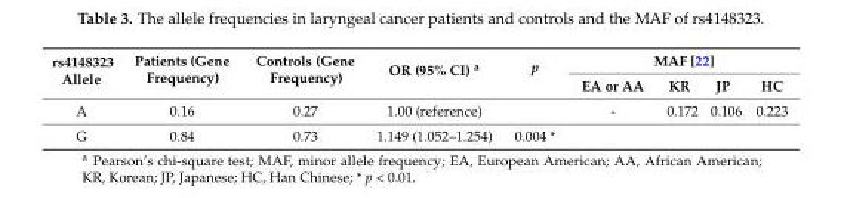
<table><thead><tr><td rowspan="2">rs4148323 Allele</td><td rowspan="2">Patients (Gene Frequency)</td><td rowspan="2">Controls (Gene Frequency)</td><td rowspan="2">OR (95% CI) <sup>a</sup></td><td rowspan="2">p</td><td colspan="4">MAF [22]</td></tr><tr><td>EA or AA</td><td>KR</td><td>JP</td><td>HC</td></tr></thead><tbody><tr><td>A</td><td>0.16</td><td>0.27</td><td>1.00 (reference)</td><td></td><td>-</td><td>0.172</td><td>0.106</td><td>0.223</td></tr><tr><td>G</td><td>0.84</td><td>0.73</td><td>1.149 (1.052–1.254)</td><td>0.004 *</td><td></td><td></td><td></td><td></td></tr></tbody></table>